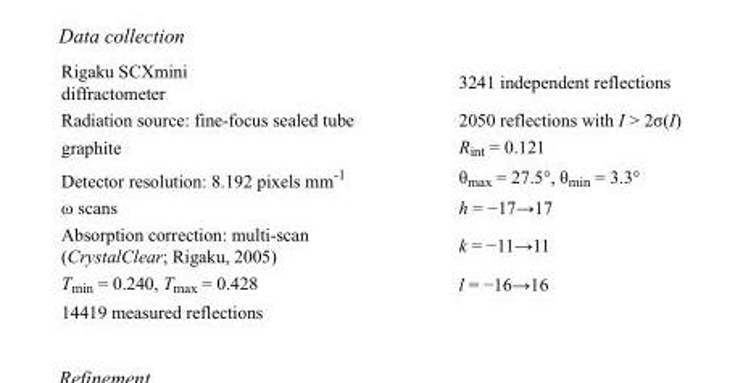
<table><tbody><tr><td>Rigaku SCXmini diffractometer</td><td>3241 independent reflections</td></tr><tr><td>Radiation source: fine-focus sealed tube</td><td>2050 reflections with I &gt; 2σ(I)</td></tr><tr><td>graphite</td><td>R<sub>int</sub> = 0.121</td></tr><tr><td>Detector resolution: 8.192 pixels mm<sup>-1</sup></td><td>θ<sub>max</sub> = 27.5°, θ<sub>min</sub> = 3.3°</td></tr><tr><td>ω scans</td><td>h = −17→17</td></tr><tr><td>Absorption correction: multi-scan (CrystalClear; Rigaku, 2005)</td><td>k = −11→11</td></tr><tr><td>T<sub>min</sub> = 0.240, T<sub>max</sub> = 0.428</td><td>l = −16→16</td></tr><tr><td>14419 measured reflections</td><td></td></tr></tbody></table>